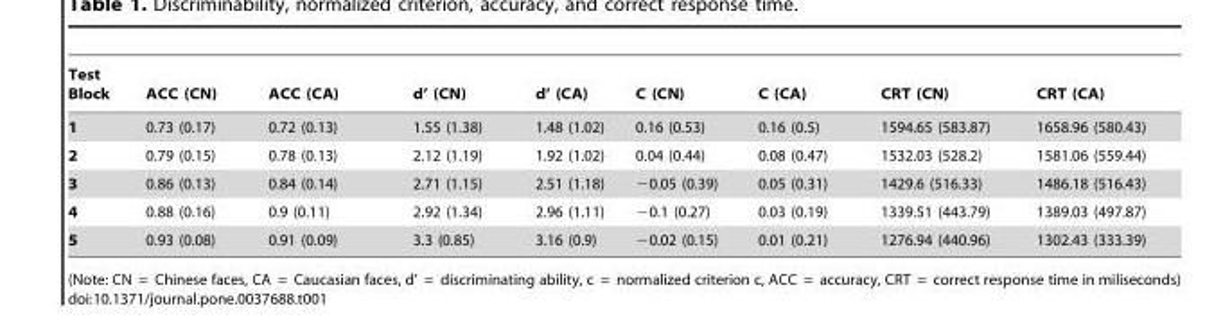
<table><thead><tr><td>Test Block</td><td>ACC (CN)</td><td>ACC (CA)</td><td>d’ (CN)</td><td>d’ (CA)</td><td>C (CN)</td><td>C (CA)</td><td>CRT (CN)</td><td>CRT (CA)</td></tr></thead><tbody><tr><td>1</td><td>0.73 (0.17)</td><td>0.72 (0.13)</td><td>1.55 (1.38)</td><td>1.48 (1.02)</td><td>0.16 (0.53)</td><td>0.16 (0.5)</td><td>1594.65 (583.87)</td><td>1658.96 (580.43)</td></tr><tr><td>2</td><td>0.79 (0.15)</td><td>0.78 (0.13)</td><td>2.12 (1.19)</td><td>1.92 (1.02)</td><td>0.04 (0.44)</td><td>0.08 (0.47)</td><td>1532.03 (528.2)</td><td>1581.06 (559.44)</td></tr><tr><td>3</td><td>0.86 (0.13)</td><td>0.84 (0.14)</td><td>2.71 (1.15)</td><td>2.51 (1.18)</td><td>−0.05 (0.39)</td><td>0.05 (0.31)</td><td>1429.6 (516.33)</td><td>1486.18 (516.43)</td></tr><tr><td>4</td><td>0.88 (0.16)</td><td>0.9 (0.11)</td><td>2.92 (1.34)</td><td>2.96 (1.11)</td><td>−0.1 (0.27)</td><td>0.03 (0.19)</td><td>1339.51 (443.79)</td><td>1389.03 (497.87)</td></tr><tr><td>5</td><td>0.93 (0.08)</td><td>0.91 (0.09)</td><td>3.3 (0.85)</td><td>3.16 (0.9)</td><td>−0.02 (0.15)</td><td>0.01 (0.21)</td><td>1276.94 (440.96)</td><td>1302.43 (333.39)</td></tr></tbody></table>